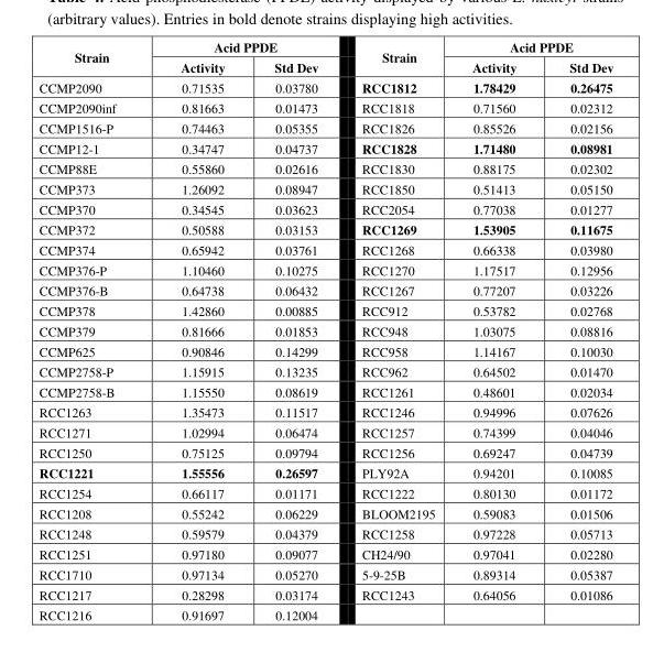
<table><thead><tr><td rowspan="2">Strain</td><td colspan="2">Acid PPDE</td><td rowspan="2">Strain</td><td colspan="2">Acid PPDE</td></tr><tr><td>Activity</td><td>Std Dev</td><td>Activity</td><td>Std Dev</td></tr></thead><tbody><tr><td>CCMP2090</td><td>0.71535</td><td>0.03780</td><td>RCC1812</td><td>1.78429</td><td>0.26475</td></tr><tr><td>CCMP2090inf</td><td>0.81663</td><td>0.01473</td><td>RCC1818</td><td>0.71560</td><td>0.02312</td></tr><tr><td>CCMP1516-P</td><td>0.74463</td><td>0.05355</td><td>RCC1826</td><td>0.85526</td><td>0.02156</td></tr><tr><td>CCMP12-1</td><td>0.34747</td><td>0.04737</td><td>RCC1828</td><td>1.71480</td><td>0.08981</td></tr><tr><td>CCMP88E</td><td>0.55860</td><td>0.02616</td><td>RCC1830</td><td>0.88175</td><td>0.02302</td></tr><tr><td>CCMP373</td><td>1.26092</td><td>0.08947</td><td>RCC1850</td><td>0.51413</td><td>0.05150</td></tr><tr><td>CCMP370</td><td>0.34545</td><td>0.03623</td><td>RCC2054</td><td>0.77038</td><td>0.01277</td></tr><tr><td>CCMP372</td><td>0.50588</td><td>0.03153</td><td>RCC1269</td><td>1.53905</td><td>0.11675</td></tr><tr><td>CCMP374</td><td>0.65942</td><td>0.03761</td><td>RCC1268</td><td>0.66338</td><td>0.03980</td></tr><tr><td>CCMP376-P</td><td>1.10460</td><td>0.10275</td><td>RCC1270</td><td>1.17517</td><td>0.12956</td></tr><tr><td>CCMP376-B</td><td>0.64738</td><td>0.06432</td><td>RCC1267</td><td>0.77207</td><td>0.03226</td></tr><tr><td>CCMP378</td><td>1.42860</td><td>0.00885</td><td>RCC912</td><td>0.53782</td><td>0.02768</td></tr><tr><td>CCMP379</td><td>0.81666</td><td>0.01853</td><td>RCC948</td><td>1.03075</td><td>0.08816</td></tr><tr><td>CCMP625</td><td>0.90846</td><td>0.14299</td><td>RCC958</td><td>1.14167</td><td>0.10030</td></tr><tr><td>CCMP2758-P</td><td>1.15915</td><td>0.13235</td><td>RCC962</td><td>0.64502</td><td>0.01470</td></tr><tr><td>CCMP2758-B</td><td>1.15550</td><td>0.08619</td><td>RCC1261</td><td>0.48601</td><td>0.02034</td></tr><tr><td>RCC1263</td><td>1.35473</td><td>0.11517</td><td>RCC1246</td><td>0.94996</td><td>0.07626</td></tr><tr><td>RCC1271</td><td>1.02994</td><td>0.06474</td><td>RCC1257</td><td>0.74399</td><td>0.04046</td></tr><tr><td>RCC1250</td><td>0.75125</td><td>0.09794</td><td>RCC1256</td><td>0.69247</td><td>0.04739</td></tr><tr><td>RCC1221</td><td>1.55556</td><td>0.26597</td><td>PLY92A</td><td>0.94201</td><td>0.10085</td></tr><tr><td>RCC1254</td><td>0.66117</td><td>0.01171</td><td>RCC1222</td><td>0.80130</td><td>0.01172</td></tr><tr><td>RCC1208</td><td>0.55242</td><td>0.06229</td><td>BLOOM2195</td><td>0.59083</td><td>0.01506</td></tr><tr><td>RCC1248</td><td>0.59579</td><td>0.04379</td><td>RCC1258</td><td>0.97228</td><td>0.05713</td></tr><tr><td>RCC1251</td><td>0.97180</td><td>0.09077</td><td>CH24/90</td><td>0.97041</td><td>0.02280</td></tr><tr><td>RCC1710</td><td>0.97134</td><td>0.05270</td><td>5-9-25B</td><td>0.89314</td><td>0.05387</td></tr><tr><td>RCC1217</td><td>0.28298</td><td>0.03174</td><td>RCC1243</td><td>0.64056</td><td>0.01086</td></tr><tr><td>RCC1216</td><td>0.91697</td><td>0.12004</td><td></td><td></td><td></td></tr></tbody></table>